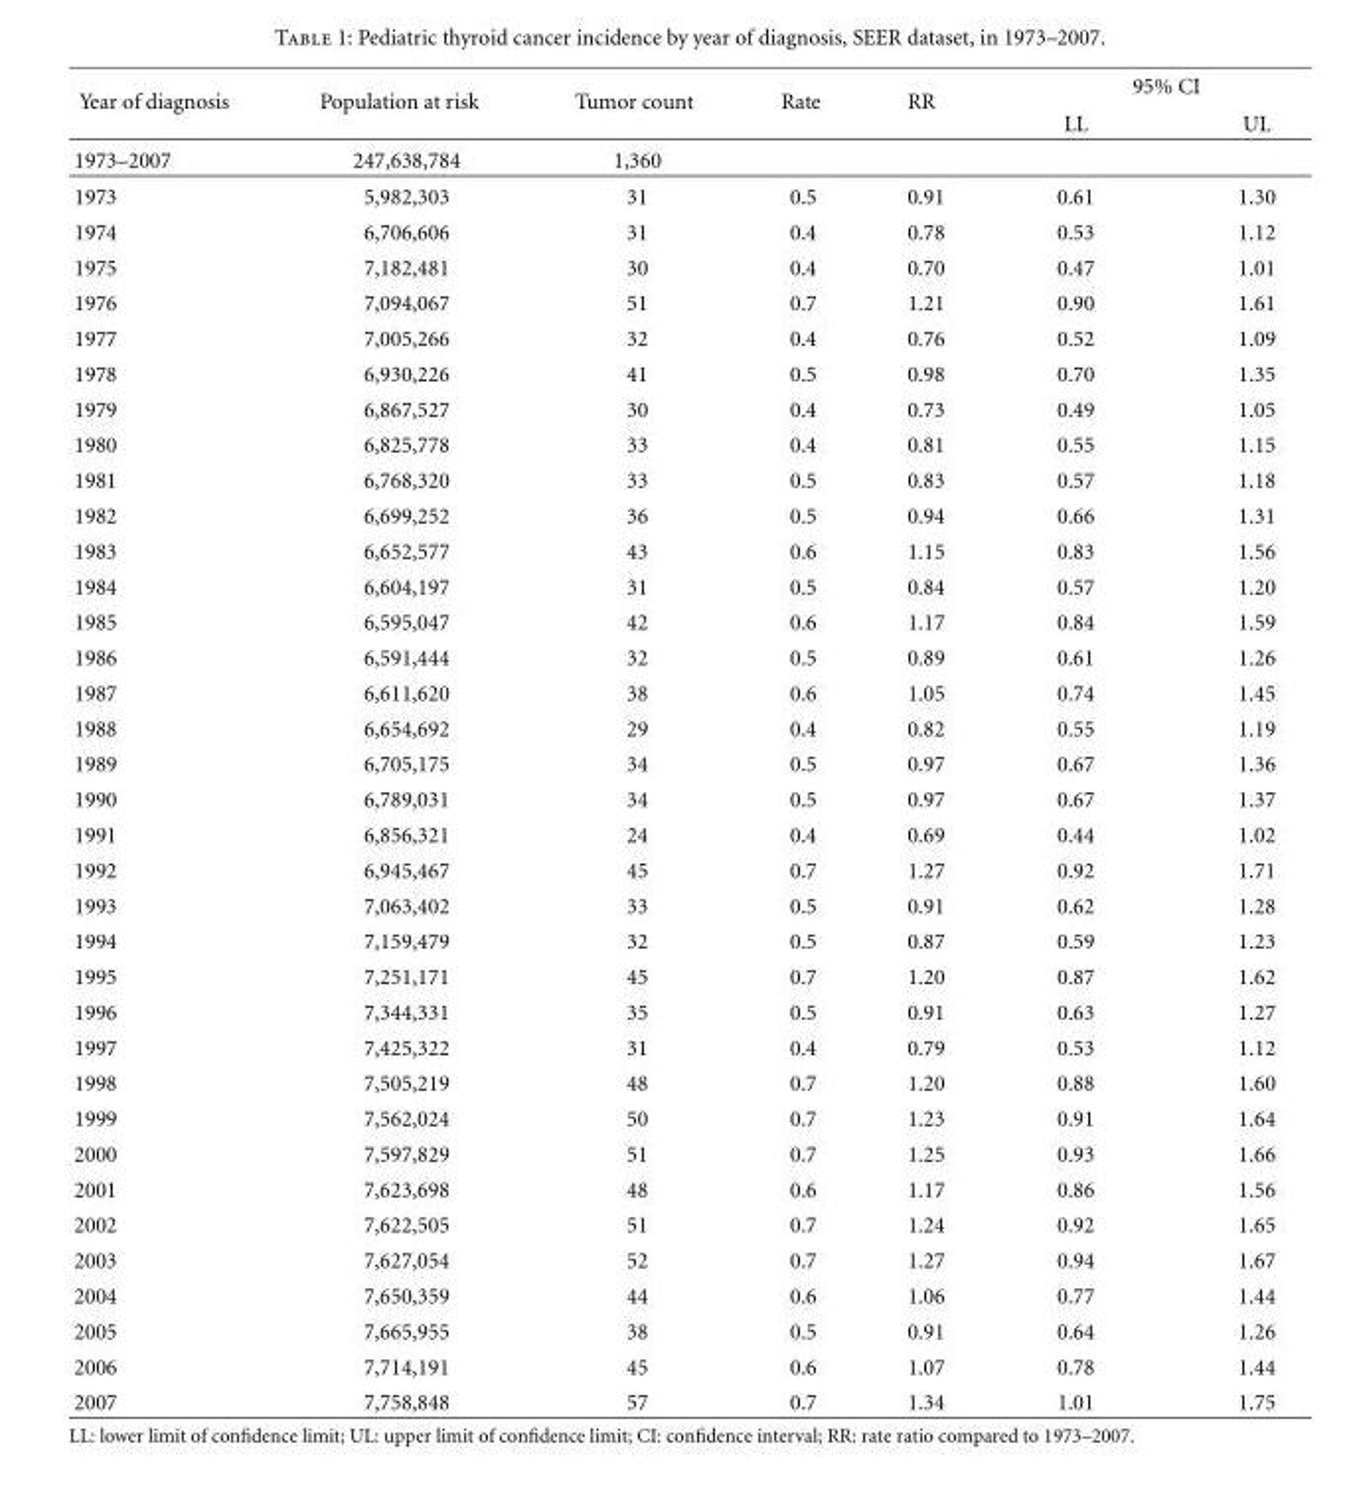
<table><thead><tr><td rowspan="2">Year of diagnosis</td><td rowspan="2">Population at risk</td><td rowspan="2">Tumor count</td><td rowspan="2">Rate</td><td rowspan="2">RR</td><td colspan="2">95% CI</td></tr><tr><td>LL</td><td>UL</td></tr></thead><tbody><tr><td>1973–2007</td><td>247,638,784</td><td>1,360</td><td></td><td></td><td></td><td></td></tr><tr><td>1973</td><td>5,982,303</td><td>31</td><td>0.5</td><td>0.91</td><td>0.61</td><td>1.30</td></tr><tr><td>1974</td><td>6,706,606</td><td>31</td><td>0.4</td><td>0.78</td><td>0.53</td><td>1.12</td></tr><tr><td>1975</td><td>7,182,481</td><td>30</td><td>0.4</td><td>0.70</td><td>0.47</td><td>1.01</td></tr><tr><td>1976</td><td>7,094,067</td><td>51</td><td>0.7</td><td>1.21</td><td>0.90</td><td>1.61</td></tr><tr><td>1977</td><td>7,005,266</td><td>32</td><td>0.4</td><td>0.76</td><td>0.52</td><td>1.09</td></tr><tr><td>1978</td><td>6,930,226</td><td>41</td><td>0.5</td><td>0.98</td><td>0.70</td><td>1.35</td></tr><tr><td>1979</td><td>6,867,527</td><td>30</td><td>0.4</td><td>0.73</td><td>0.49</td><td>1.05</td></tr><tr><td>1980</td><td>6,825,778</td><td>33</td><td>0.4</td><td>0.81</td><td>0.55</td><td>1.15</td></tr><tr><td>1981</td><td>6,768,320</td><td>33</td><td>0.5</td><td>0.83</td><td>0.57</td><td>1.18</td></tr><tr><td>1982</td><td>6,699,252</td><td>36</td><td>0.5</td><td>0.94</td><td>0.66</td><td>1.31</td></tr><tr><td>1983</td><td>6,652,577</td><td>43</td><td>0.6</td><td>1.15</td><td>0.83</td><td>1.56</td></tr><tr><td>1984</td><td>6,604,197</td><td>31</td><td>0.5</td><td>0.84</td><td>0.57</td><td>1.20</td></tr><tr><td>1985</td><td>6,595,047</td><td>42</td><td>0.6</td><td>1.17</td><td>0.84</td><td>1.59</td></tr><tr><td>1986</td><td>6,591,444</td><td>32</td><td>0.5</td><td>0.89</td><td>0.61</td><td>1.26</td></tr><tr><td>1987</td><td>6,611,620</td><td>38</td><td>0.6</td><td>1.05</td><td>0.74</td><td>1.45</td></tr><tr><td>1988</td><td>6,654,692</td><td>29</td><td>0.4</td><td>0.82</td><td>0.55</td><td>1.19</td></tr><tr><td>1989</td><td>6,705,175</td><td>34</td><td>0.5</td><td>0.97</td><td>0.67</td><td>1.36</td></tr><tr><td>1990</td><td>6,789,031</td><td>34</td><td>0.5</td><td>0.97</td><td>0.67</td><td>1.37</td></tr><tr><td>1991</td><td>6,856,321</td><td>24</td><td>0.4</td><td>0.69</td><td>0.44</td><td>1.02</td></tr><tr><td>1992</td><td>6,945,467</td><td>45</td><td>0.7</td><td>1.27</td><td>0.92</td><td>1.71</td></tr><tr><td>1993</td><td>7,063,402</td><td>33</td><td>0.5</td><td>0.91</td><td>0.62</td><td>1.28</td></tr><tr><td>1994</td><td>7,159,479</td><td>32</td><td>0.5</td><td>0.87</td><td>0.59</td><td>1.23</td></tr><tr><td>1995</td><td>7,251,171</td><td>45</td><td>0.7</td><td>1.20</td><td>0.87</td><td>1.62</td></tr><tr><td>1996</td><td>7,344,331</td><td>35</td><td>0.5</td><td>0.91</td><td>0.63</td><td>1.27</td></tr><tr><td>1997</td><td>7,425,322</td><td>31</td><td>0.4</td><td>0.79</td><td>0.53</td><td>1.12</td></tr><tr><td>1998</td><td>7,505,219</td><td>48</td><td>0.7</td><td>1.20</td><td>0.88</td><td>1.60</td></tr><tr><td>1999</td><td>7,562,024</td><td>50</td><td>0.7</td><td>1.23</td><td>0.91</td><td>1.64</td></tr><tr><td>2000</td><td>7,597,829</td><td>51</td><td>0.7</td><td>1.25</td><td>0.93</td><td>1.66</td></tr><tr><td>2001</td><td>7,623,698</td><td>48</td><td>0.6</td><td>1.17</td><td>0.86</td><td>1.56</td></tr><tr><td>2002</td><td>7,622,505</td><td>51</td><td>0.7</td><td>1.24</td><td>0.92</td><td>1.65</td></tr><tr><td>2003</td><td>7,627,054</td><td>52</td><td>0.7</td><td>1.27</td><td>0.94</td><td>1.67</td></tr><tr><td>2004</td><td>7,650,359</td><td>44</td><td>0.6</td><td>1.06</td><td>0.77</td><td>1.44</td></tr><tr><td>2005</td><td>7,665,955</td><td>38</td><td>0.5</td><td>0.91</td><td>0.64</td><td>1.26</td></tr><tr><td>2006</td><td>7,714,191</td><td>45</td><td>0.6</td><td>1.07</td><td>0.78</td><td>1.44</td></tr><tr><td>2007</td><td>7,758,848</td><td>57</td><td>0.7</td><td>1.34</td><td>1.01</td><td>1.75</td></tr></tbody></table>